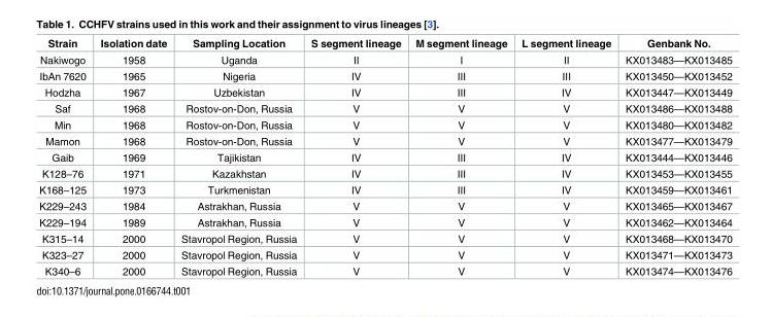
<table><thead><tr><td>Strain</td><td>Isolation date</td><td>Sampling Location</td><td>S segment lineage</td><td>M segment lineage</td><td>L segment lineage</td><td>Genbank No.</td></tr></thead><tbody><tr><td>Nakiwogo</td><td>1958</td><td>Uganda</td><td>II</td><td>I</td><td>II</td><td>KX013483—KX013485</td></tr><tr><td>IbAn 7620</td><td>1965</td><td>Nigeria</td><td>IV</td><td>III</td><td>III</td><td>KX013450—KX013452</td></tr><tr><td>Hodzha</td><td>1967</td><td>Uzbekistan</td><td>IV</td><td>III</td><td>IV</td><td>KX013447—KX013449</td></tr><tr><td>Saf</td><td>1968</td><td>Rostov-on-Don, Russia</td><td>V</td><td>V</td><td>V</td><td>KX013486—KX013488</td></tr><tr><td>Min</td><td>1968</td><td>Rostov-on-Don, Russia</td><td>V</td><td>V</td><td>V</td><td>KX013480—KX013482</td></tr><tr><td>Mamon</td><td>1968</td><td>Rostov-on-Don, Russia</td><td>V</td><td>V</td><td>V</td><td>KX013477—KX013479</td></tr><tr><td>Gaib</td><td>1969</td><td>Tajikistan</td><td>IV</td><td>III</td><td>IV</td><td>KX013444—KX013446</td></tr><tr><td>K128–76</td><td>1971</td><td>Kazakhstan</td><td>IV</td><td>III</td><td>IV</td><td>KX013453—KX013455</td></tr><tr><td>K168–125</td><td>1973</td><td>Turkmenistan</td><td>IV</td><td>III</td><td>IV</td><td>KX013459—KX013461</td></tr><tr><td>K229–243</td><td>1984</td><td>Astrakhan, Russia</td><td>V</td><td>V</td><td>V</td><td>KX013465—KX013467</td></tr><tr><td>K229–194</td><td>1989</td><td>Astrakhan, Russia</td><td>V</td><td>V</td><td>V</td><td>KX013462—KX013464</td></tr><tr><td>K315–14</td><td>2000</td><td>Stavropol Region, Russia</td><td>V</td><td>V</td><td>V</td><td>KX013468—KX013470</td></tr><tr><td>K323–27</td><td>2000</td><td>Stavropol Region, Russia</td><td>V</td><td>V</td><td>V</td><td>KX013471—KX013473</td></tr><tr><td>K340–6</td><td>2000</td><td>Stavropol Region, Russia</td><td>V</td><td>V</td><td>V</td><td>KX013474—KX013476</td></tr></tbody></table>